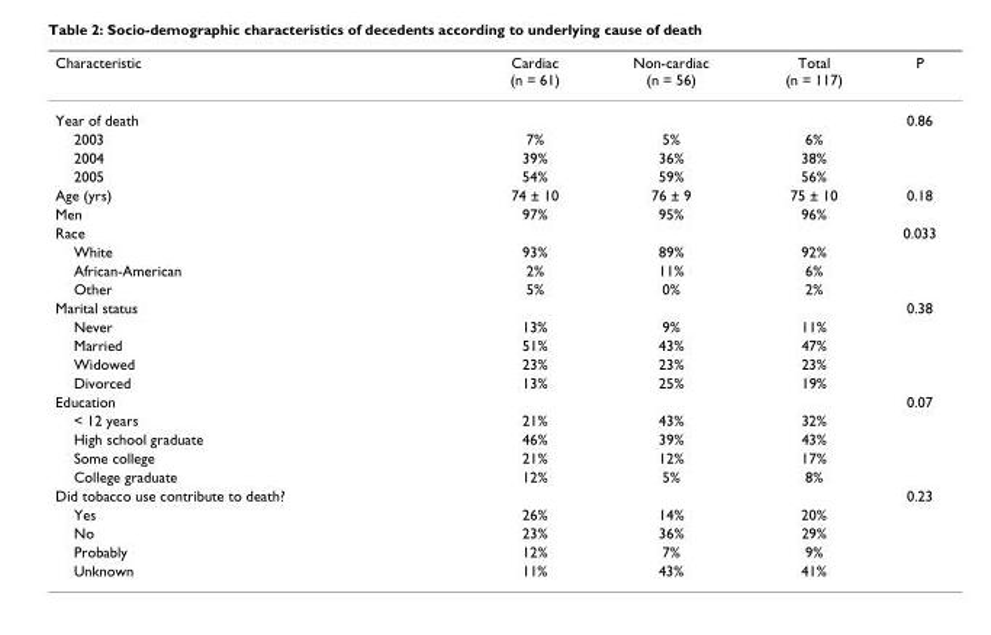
<table><thead><tr><td>Characteristic</td><td>Cardiac (n = 61)</td><td>Non-cardiac (n = 56)</td><td>Total (n = 117)</td><td>P</td></tr></thead><tbody><tr><td>Year of death</td><td></td><td></td><td></td><td>0.86</td></tr><tr><td>2003</td><td>7%</td><td>5%</td><td>6%</td><td></td></tr><tr><td>2004</td><td>39%</td><td>36%</td><td>38%</td><td></td></tr><tr><td>2005</td><td>54%</td><td>59%</td><td>56%</td><td></td></tr><tr><td>Age (yrs)</td><td>74 ± 10</td><td>76 ± 9</td><td>75 ± 10</td><td>0.18</td></tr><tr><td>Men</td><td>97%</td><td>95%</td><td>96%</td><td></td></tr><tr><td>Race</td><td></td><td></td><td></td><td>0.033</td></tr><tr><td>White</td><td>93%</td><td>89%</td><td>92%</td><td></td></tr><tr><td>African-American</td><td>2%</td><td>11%</td><td>6%</td><td></td></tr><tr><td>Other</td><td>5%</td><td>0%</td><td>2%</td><td></td></tr><tr><td>Marital status</td><td></td><td></td><td></td><td>0.38</td></tr><tr><td>Never</td><td>13%</td><td>9%</td><td>11%</td><td></td></tr><tr><td>Married</td><td>51%</td><td>43%</td><td>47%</td><td></td></tr><tr><td>Widowed</td><td>23%</td><td>23%</td><td>23%</td><td></td></tr><tr><td>Divorced</td><td>13%</td><td>25%</td><td>19%</td><td></td></tr><tr><td>Education</td><td></td><td></td><td></td><td>0.07</td></tr><tr><td>&lt; 12 years</td><td>21%</td><td>43%</td><td>32%</td><td></td></tr><tr><td>High school graduate</td><td>46%</td><td>39%</td><td>43%</td><td></td></tr><tr><td>Some college</td><td>21%</td><td>12%</td><td>17%</td><td></td></tr><tr><td>College graduate</td><td>12%</td><td>5%</td><td>8%</td><td></td></tr><tr><td>Did tobacco use contribute to death?</td><td></td><td></td><td></td><td>0.23</td></tr><tr><td>Yes</td><td>26%</td><td>14%</td><td>20%</td><td></td></tr><tr><td>No</td><td>23%</td><td>36%</td><td>29%</td><td></td></tr><tr><td>Probably</td><td>12%</td><td>7%</td><td>9%</td><td></td></tr><tr><td>Unknown</td><td>11%</td><td>43%</td><td>41%</td><td></td></tr></tbody></table>